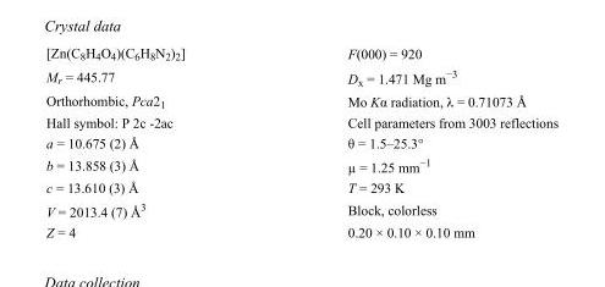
<table><tbody><tr><td>[Zn(C<sub>8</sub>H<sub>4</sub>O<sub>4</sub>)(C<sub>6</sub>H<sub>8</sub>N<sub>2</sub>)<sub>2</sub>]</td><td>F(000) = 920</td></tr><tr><td>M<sub>r</sub> = 445.77</td><td>D<sub>x</sub> = 1.471 Mg m<sup>−3</sup></td></tr><tr><td>Orthorhombic, Pca2<sub>1</sub></td><td>Mo Kα radiation, λ = 0.71073 Å</td></tr><tr><td>Hall symbol: P 2c -2ac</td><td>Cell parameters from 3003 reflections</td></tr><tr><td>a = 10.675 (2) Å</td><td>θ = 1.5–25.3°</td></tr><tr><td>b = 13.858 (3) Å</td><td>µ = 1.25 mm<sup>−1</sup></td></tr><tr><td>c = 13.610 (3) Å</td><td>T = 293 K</td></tr><tr><td>V = 2013.4 (7) Å<sup>3</sup></td><td>Block, colorless</td></tr><tr><td>Z = 4</td><td>0.20 × 0.10 × 0.10 mm</td></tr></tbody></table>